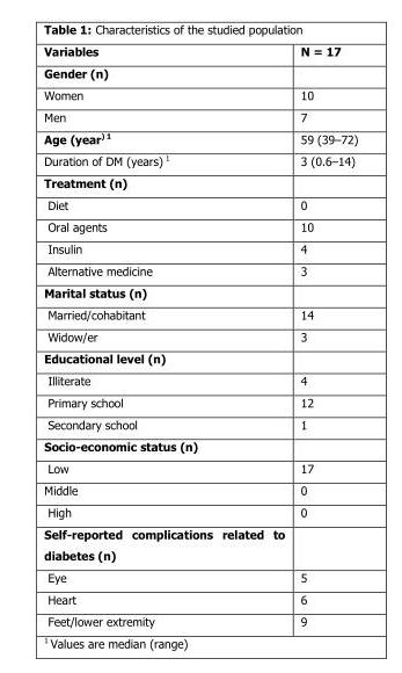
<table><thead><tr><td>Variables</td><td>N = 17</td></tr></thead><tbody><tr><td colspan="2">Gender (n)</td></tr><tr><td>Women</td><td>10</td></tr><tr><td>Men</td><td>7</td></tr><tr><td>Age (year) <sup>1</sup></td><td>59 (39–72)</td></tr><tr><td>Duration of DM (years) 1</td><td>3 (0.6–14)</td></tr><tr><td colspan="2">Treatment (n)</td></tr><tr><td>Diet</td><td>0</td></tr><tr><td>Oral agents</td><td>10</td></tr><tr><td>Insulin</td><td>4</td></tr><tr><td>Alternative medicine</td><td>3</td></tr><tr><td colspan="2">Marital status (n)</td></tr><tr><td>Married/cohabitant</td><td>14</td></tr><tr><td>Widow/er</td><td>3</td></tr><tr><td colspan="2">Educational level (n)</td></tr><tr><td>Illiterate</td><td>4</td></tr><tr><td>Primary school</td><td>12</td></tr><tr><td>Secondary school</td><td>1</td></tr><tr><td colspan="2">Socio-economic status (n)</td></tr><tr><td>Low</td><td>17</td></tr><tr><td>Middle</td><td>0</td></tr><tr><td>High</td><td>0</td></tr><tr><td colspan="2">Self-reported complications related to diabetes (n)</td></tr><tr><td>Eye</td><td>5</td></tr><tr><td>Heart</td><td>6</td></tr><tr><td>Feet/lower extremity</td><td>9</td></tr></tbody></table>